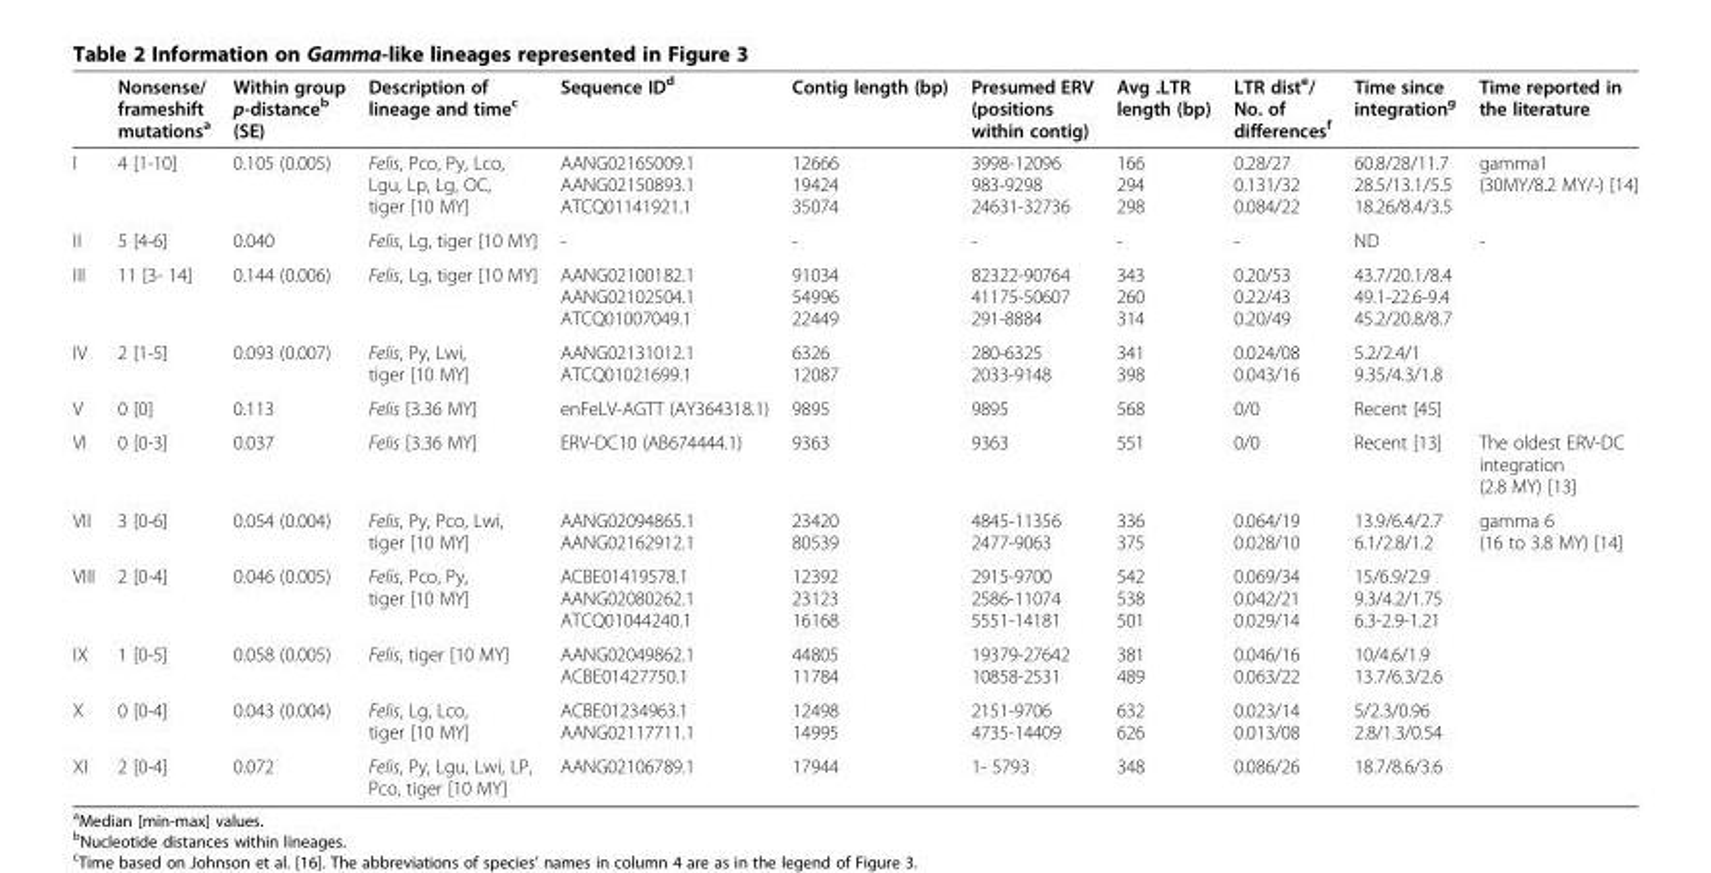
<table><thead><tr><td></td><td>Nonsense/ frameshift mutations<sup>a</sup></td><td>Within group p-distance<sup>b</sup> (SE)</td><td>Description of lineage and time<sup>c</sup></td><td>Sequence ID<sup>d</sup></td><td>Contig length (bp)</td><td>Presumed ERV (positions within contig)</td><td>Avg .LTR length (bp)</td><td>LTR dist<sup>e</sup>/ No. of differences<sup>f</sup></td><td>Time since integration<sup>g</sup></td><td>Time reported in the literature</td></tr></thead><tbody><tr><td>I</td><td>4 [1-10]</td><td>0.105 (0.005)</td><td>Felis, Pco, Py, Lco, Lgu, Lp, Lg, OC, tiger [10 MY]</td><td>AANG02165009.1 AANG02150893.1 ATCQ01141921.1</td><td>12666 19424 35074</td><td>3998-12096 983-9298 24631-32736</td><td>166 294 298</td><td>0.28/27 0.131/32 0.084/22</td><td>60.8/28/11.7 28.5/13.1/5.5 18.26/8.4/3.5</td><td>gamma1 (30MY/8.2 MY/-) [14]</td></tr><tr><td>II</td><td>5 [4-6]</td><td>0.040</td><td>Felis, Lg, tiger [10 MY]</td><td>-</td><td>-</td><td>-</td><td>-</td><td>-</td><td>ND</td><td>-</td></tr><tr><td>III</td><td>11 [3- 14]</td><td>0.144 (0.006)</td><td>Felis, Lg, tiger [10 MY]</td><td>AANG02100182.1 AANG02102504.1 ATCQ01007049.1</td><td>91034 54996 22449</td><td>82322-90764 41175-50607 291-8884</td><td>343 260 314</td><td>0.20/53 0.22/43 0.20/49</td><td>43.7/20.1/8.4 49.1-22.6-9.4 45.2/20.8/8.7</td><td></td></tr><tr><td>IV</td><td>2 [1-5]</td><td>0.093 (0.007)</td><td>Felis, Py, Lwi, tiger [10 MY]</td><td>AANG02131012.1 ATCQ01021699.1</td><td>6326 12087</td><td>280-6325 2033-9148</td><td>341 398</td><td>0.024/08 0.043/16</td><td>5.2/2.4/1 9.35/4.3/1.8</td><td></td></tr><tr><td>V</td><td>0 [0]</td><td>0.113</td><td>Felis [3.36 MY]</td><td>enFeLV-AGTT (AY364318.1)</td><td>9895</td><td>9895</td><td>568</td><td>0/0</td><td>Recent [45]</td><td></td></tr><tr><td>VI</td><td>0 [0-3]</td><td>0.037</td><td>Felis [3.36 MY]</td><td>ERV-DC10 (AB674444.1)</td><td>9363</td><td>9363</td><td>551</td><td>0/0</td><td>Recent [13]</td><td>The oldest ERV-DC integration (2.8 MY) [13]</td></tr><tr><td>VII</td><td>3 [0-6]</td><td>0.054 (0.004)</td><td>Felis, Py, Pco, Lwi, tiger [10 MY]</td><td>AANG02094865.1 AANG02162912.1</td><td>23420 80539</td><td>4845-11356 2477-9063</td><td>336 375</td><td>0.064/19 0.028/10</td><td>13.9/6.4/2.7 6.1/2.8/1.2</td><td>gamma 6 (16 to 3.8 MY) [14]</td></tr><tr><td>VIII</td><td>2 [0-4]</td><td>0.046 (0.005)</td><td>Felis, Pco, Py, tiger [10 MY]</td><td>ACBE01419578.1 AANG02080262.1 ATCQ01044240.1</td><td>12392 23123 16168</td><td>2915-9700 2586-11074 5551-14181</td><td>542 538 501</td><td>0.069/34 0.042/21 0.029/14</td><td>15/6.9/2.9 9.3/4.2/1.75 6.3-2.9-1.21</td><td></td></tr><tr><td>IX</td><td>1 [0-5]</td><td>0.058 (0.005)</td><td>Felis, tiger [10 MY]</td><td>AANG02049862.1 ACBE01427750.1</td><td>44805 11784</td><td>19379-27642 10858-2531</td><td>381 489</td><td>0.046/16 0.063/22</td><td>10/4.6/1.9 13.7/6.3/2.6</td><td></td></tr><tr><td>X</td><td>0 [0-4]</td><td>0.043 (0.004)</td><td>Felis, Lg, Lco, tiger [10 MY]</td><td>ACBE01234963.1 AANG02117711.1</td><td>12498 14995</td><td>2151-9706 4735-14409</td><td>632 626</td><td>0.023/14 0.013/08</td><td>5/2.3/0.96 2.8/1.3/0.54</td><td></td></tr><tr><td>XI</td><td>2 [0-4]</td><td>0.072</td><td>Felis, Py, Lgu, Lwi, LP, Pco, tiger [10 MY]</td><td>AANG02106789.1</td><td>17944</td><td>1- 5793</td><td>348</td><td>0.086/26</td><td>18.7/8.6/3.6</td><td></td></tr></tbody></table>